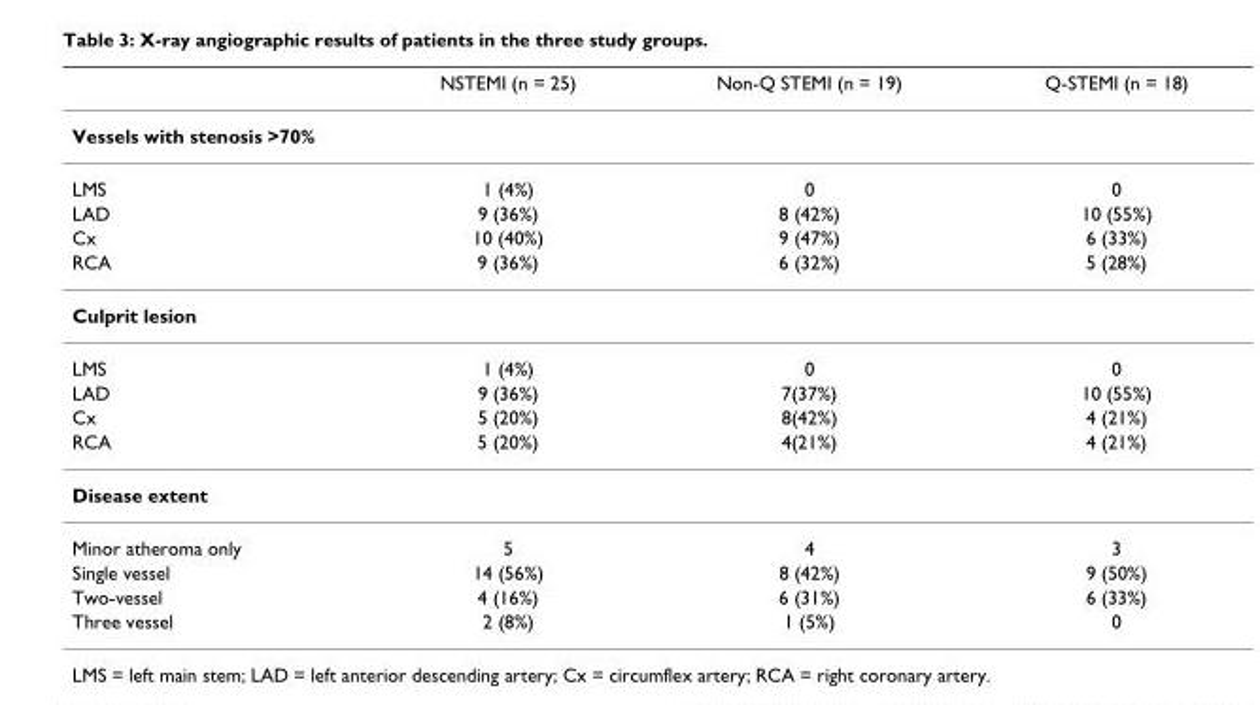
<table><thead><tr><td></td><td>NSTEMI (n = 25)</td><td>Non-Q STEMI (n = 19)</td><td>Q-STEMI (n = 18)</td></tr></thead><tbody><tr><td colspan="4">Vessels with stenosis &gt;70%</td></tr><tr><td>LMS</td><td>1 (4%)</td><td>0</td><td>0</td></tr><tr><td>LAD</td><td>9 (36%)</td><td>8 (42%)</td><td>10 (55%)</td></tr><tr><td>Cx</td><td>10 (40%)</td><td>9 (47%)</td><td>6 (33%)</td></tr><tr><td>RCA</td><td>9 (36%)</td><td>6 (32%)</td><td>5 (28%)</td></tr><tr><td colspan="4">Culprit lesion</td></tr><tr><td>LMS</td><td>1 (4%)</td><td>0</td><td>0</td></tr><tr><td>LAD</td><td>9 (36%)</td><td>7(37%)</td><td>10 (55%)</td></tr><tr><td>Cx</td><td>5 (20%)</td><td>8(42%)</td><td>4 (21%)</td></tr><tr><td>RCA</td><td>5 (20%)</td><td>4(21%)</td><td>4 (21%)</td></tr><tr><td colspan="4">Disease extent</td></tr><tr><td>Minor atheroma only</td><td>5</td><td>4</td><td>3</td></tr><tr><td>Single vessel</td><td>14 (56%)</td><td>8 (42%)</td><td>9 (50%)</td></tr><tr><td>Two-vessel</td><td>4 (16%)</td><td>6 (31%)</td><td>6 (33%)</td></tr><tr><td>Three vessel</td><td>2 (8%)</td><td>1 (5%)</td><td>0</td></tr></tbody></table>